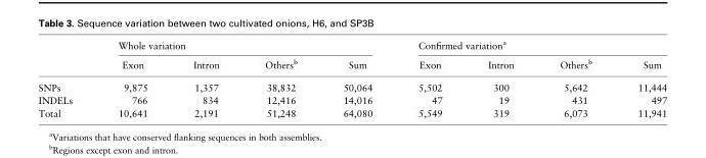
<table><thead><tr><td rowspan="2"></td><td colspan="4">Whole variation</td><td colspan="4">Confirmed variation<sup>a</sup></td></tr><tr><td>Exon</td><td>Intron</td><td>Others<sup>b</sup></td><td>Sum</td><td>Exon</td><td>Intron</td><td>Others<sup>b</sup></td><td>Sum</td></tr></thead><tbody><tr><td>SNPs</td><td>9,875</td><td>1,357</td><td>38,832</td><td>50,064</td><td>5,502</td><td>300</td><td>5,642</td><td>11,444</td></tr><tr><td>INDELs</td><td>766</td><td>834</td><td>12,416</td><td>14,016</td><td>47</td><td>19</td><td>431</td><td>497</td></tr><tr><td>Total</td><td>10,641</td><td>2,191</td><td>51,248</td><td>64,080</td><td>5,549</td><td>319</td><td>6,073</td><td>11,941</td></tr></tbody></table>